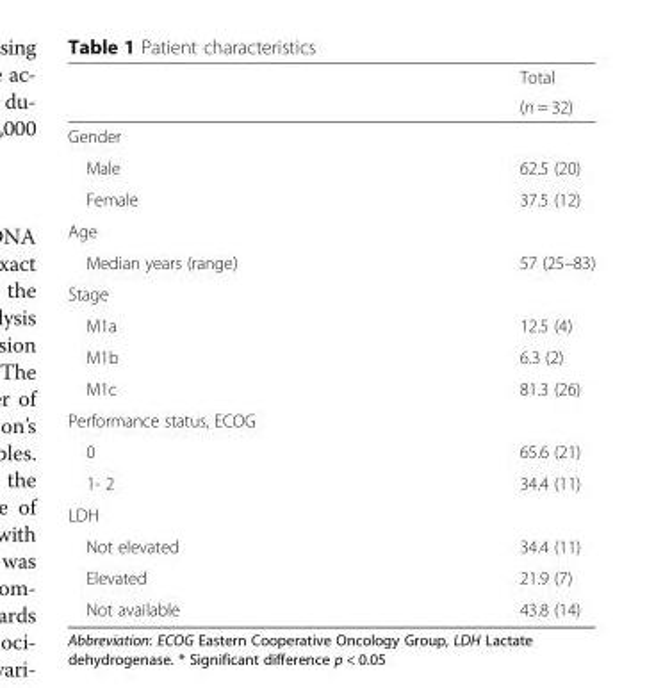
<table><thead><tr><td rowspan="2"></td><td rowspan="2">Total (n = 32)</td></tr><tr></tr></thead><tbody><tr><td colspan="2">Gender</td></tr><tr><td>Male</td><td>62.5 (20)</td></tr><tr><td>Female</td><td>37.5 (12)</td></tr><tr><td colspan="2">Age</td></tr><tr><td>Median years (range)</td><td>57 (25–83)</td></tr><tr><td colspan="2">Stage</td></tr><tr><td>M1a</td><td>12.5 (4)</td></tr><tr><td>M1b</td><td>6.3 (2)</td></tr><tr><td>M1c</td><td>81.3 (26)</td></tr><tr><td colspan="2">Performance status, ECOG</td></tr><tr><td>0</td><td>65.6 (21)</td></tr><tr><td>1- 2</td><td>34.4 (11)</td></tr><tr><td colspan="2">LDH</td></tr><tr><td>Not elevated</td><td>34.4 (11)</td></tr><tr><td>Elevated</td><td>21.9 (7)</td></tr><tr><td>Not available</td><td>43.8 (14)</td></tr></tbody></table>